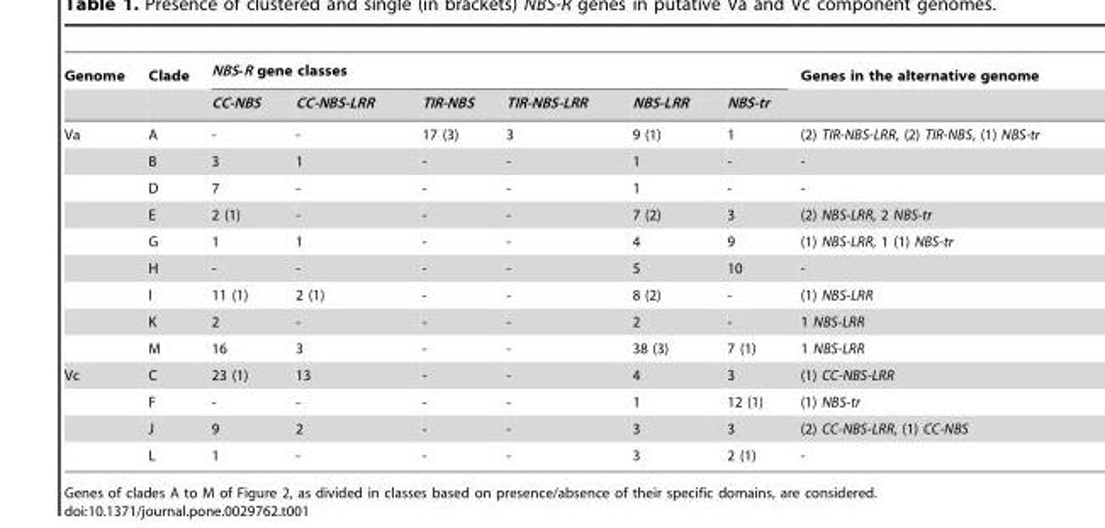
<table><thead><tr><td rowspan="2">Genome</td><td rowspan="2">Clade</td><td colspan="6">NBS-R gene classes</td><td rowspan="2">Genes in the alternative genome</td></tr><tr><td>CC-NBS</td><td>CC-NBS-LRR</td><td>TIR-NBS</td><td>TIR-NBS-LRR</td><td>NBS-LRR</td><td>NBS-tr</td></tr></thead><tbody><tr><td rowspan="9">Va</td><td>A</td><td>-</td><td>-</td><td>17 (3)</td><td>3</td><td>9 (1)</td><td>1</td><td>(2) TIR-NBS-LRR, (2) TIR-NBS, (1) NBS-tr</td></tr><tr><td>B</td><td>3</td><td>1</td><td>-</td><td>-</td><td>1</td><td>-</td><td>-</td></tr><tr><td>D</td><td>7</td><td>-</td><td>-</td><td>-</td><td>1</td><td>-</td><td>-</td></tr><tr><td>E</td><td>2 (1)</td><td>-</td><td>-</td><td>-</td><td>7 (2)</td><td>3</td><td>(2) NBS-LRR, 2 NBS-tr</td></tr><tr><td>G</td><td>1</td><td>1</td><td>-</td><td>-</td><td>4</td><td>9</td><td>(1) NBS-LRR, 1 (1) NBS-tr</td></tr><tr><td>H</td><td>-</td><td>-</td><td>-</td><td>-</td><td>5</td><td>10</td><td>-</td></tr><tr><td>I</td><td>11 (1)</td><td>2 (1)</td><td>-</td><td>-</td><td>8 (2)</td><td>-</td><td>(1) NBS-LRR</td></tr><tr><td>K</td><td>2</td><td>-</td><td>-</td><td>-</td><td>2</td><td>-</td><td>1 NBS-LRR</td></tr><tr><td>M</td><td>16</td><td>3</td><td>-</td><td>-</td><td>38 (3)</td><td>7 (1)</td><td>1 NBS-LRR</td></tr><tr><td rowspan="4">Vc</td><td>C</td><td>23 (1)</td><td>13</td><td>-</td><td>-</td><td>4</td><td>3</td><td>(1) CC-NBS-LRR</td></tr><tr><td>F</td><td>-</td><td>-</td><td>-</td><td>-</td><td>1</td><td>12 (1)</td><td>(1) NBS-tr</td></tr><tr><td>J</td><td>9</td><td>2</td><td>-</td><td>-</td><td>3</td><td>3</td><td>(2) CC-NBS-LRR, (1) CC-NBS</td></tr><tr><td>L</td><td>1</td><td>-</td><td>-</td><td>-</td><td>3</td><td>2 (1)</td><td>-</td></tr></tbody></table>